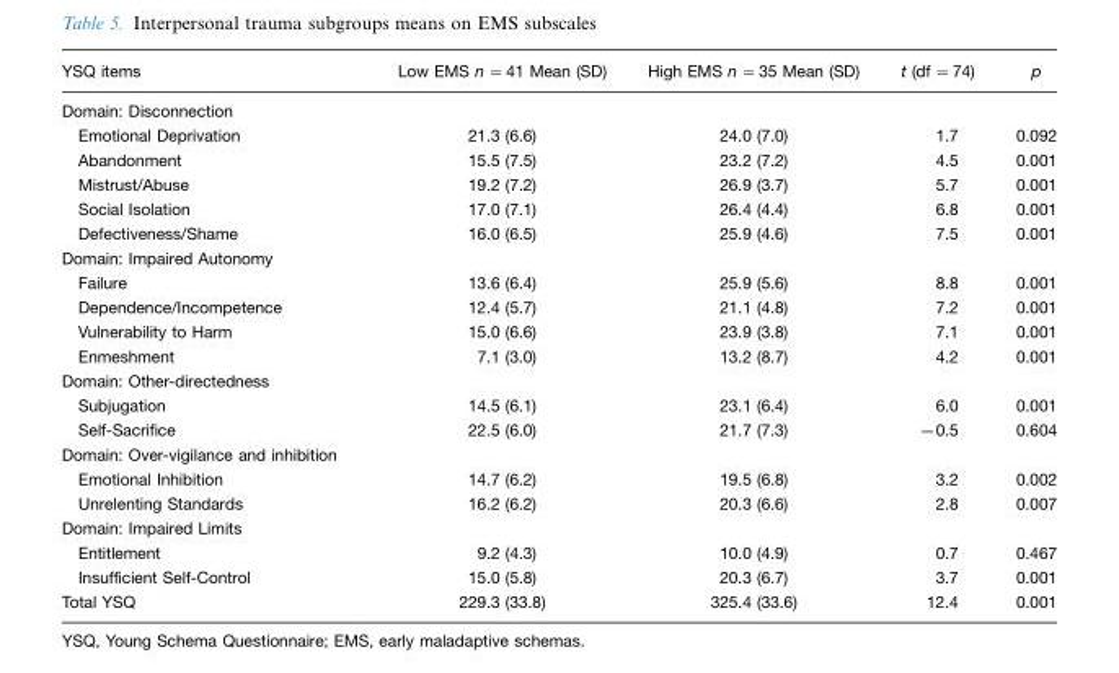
<table><thead><tr><td>YSQ items</td><td>Low EMS n =41 Mean (SD)</td><td>High EMS n =35 Mean (SD)</td><td>t (df =74)</td><td>p</td></tr></thead><tbody><tr><td colspan="5">Domain: Disconnection</td></tr><tr><td>Emotional Deprivation</td><td>21.3 (6.6)</td><td>24.0 (7.0)</td><td>1.7</td><td>0.092</td></tr><tr><td>Abandonment</td><td>15.5 (7.5)</td><td>23.2 (7.2)</td><td>4.5</td><td>0.001</td></tr><tr><td>Mistrust/Abuse</td><td>19.2 (7.2)</td><td>26.9 (3.7)</td><td>5.7</td><td>0.001</td></tr><tr><td>Social Isolation</td><td>17.0 (7.1)</td><td>26.4 (4.4)</td><td>6.8</td><td>0.001</td></tr><tr><td>Defectiveness/Shame</td><td>16.0 (6.5)</td><td>25.9 (4.6)</td><td>7.5</td><td>0.001</td></tr><tr><td colspan="5">Domain: Impaired Autonomy</td></tr><tr><td>Failure</td><td>13.6 (6.4)</td><td>25.9 (5.6)</td><td>8.8</td><td>0.001</td></tr><tr><td>Dependence/Incompetence</td><td>12.4 (5.7)</td><td>21.1 (4.8)</td><td>7.2</td><td>0.001</td></tr><tr><td>Vulnerability to Harm</td><td>15.0 (6.6)</td><td>23.9 (3.8)</td><td>7.1</td><td>0.001</td></tr><tr><td>Enmeshment</td><td>7.1 (3.0)</td><td>13.2 (8.7)</td><td>4.2</td><td>0.001</td></tr><tr><td colspan="5">Domain: Other-directedness</td></tr><tr><td>Subjugation</td><td>14.5 (6.1)</td><td>23.1 (6.4)</td><td>6.0</td><td>0.001</td></tr><tr><td>Self-Sacrifice</td><td>22.5 (6.0)</td><td>21.7 (7.3)</td><td>−0.5</td><td>0.604</td></tr><tr><td colspan="5">Domain: Over-vigilance and inhibition</td></tr><tr><td>Emotional Inhibition</td><td>14.7 (6.2)</td><td>19.5 (6.8)</td><td>3.2</td><td>0.002</td></tr><tr><td>Unrelenting Standards</td><td>16.2 (6.2)</td><td>20.3 (6.6)</td><td>2.8</td><td>0.007</td></tr><tr><td colspan="5">Domain: Impaired Limits</td></tr><tr><td>Entitlement</td><td>9.2 (4.3)</td><td>10.0 (4.9)</td><td>0.7</td><td>0.467</td></tr><tr><td>Insufficient Self-Control</td><td>15.0 (5.8)</td><td>20.3 (6.7)</td><td>3.7</td><td>0.001</td></tr><tr><td>Total YSQ</td><td>229.3 (33.8)</td><td>325.4 (33.6)</td><td>12.4</td><td>0.001</td></tr></tbody></table>